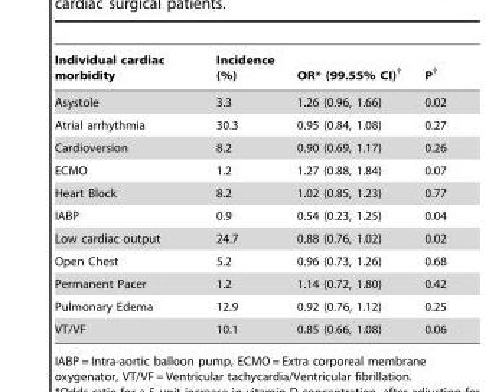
<table><thead><tr><td>Individual cardiac morbidity</td><td>Incidence (%)</td><td>OR* (99.55% CI)†</td><td>P†</td></tr></thead><tbody><tr><td>Asystole</td><td>3.3</td><td>1.26 (0.96, 1.66)</td><td>0.02</td></tr><tr><td>Atrial arrhythmia</td><td>30.3</td><td>0.95 (0.84, 1.08)</td><td>0.27</td></tr><tr><td>Cardioversion</td><td>8.2</td><td>0.90 (0.69, 1.17)</td><td>0.26</td></tr><tr><td>ECMO</td><td>1.2</td><td>1.27 (0.88, 1.84)</td><td>0.07</td></tr><tr><td>Heart Block</td><td>8.2</td><td>1.02 (0.85, 1.23)</td><td>0.77</td></tr><tr><td>IABP</td><td>0.9</td><td>0.54 (0.23, 1.25)</td><td>0.04</td></tr><tr><td>Low cardiac output</td><td>24.7</td><td>0.88 (0.76, 1.02)</td><td>0.02</td></tr><tr><td>Open Chest</td><td>5.2</td><td>0.96 (0.73, 1.26)</td><td>0.68</td></tr><tr><td>Permanent Pacer</td><td>1.2</td><td>1.14 (0.72, 1.80)</td><td>0.42</td></tr><tr><td>Pulmonary Edema</td><td>12.9</td><td>0.92 (0.76, 1.12)</td><td>0.25</td></tr><tr><td>VT/VF</td><td>10.1</td><td>0.85 (0.66, 1.08)</td><td>0.06</td></tr></tbody></table>